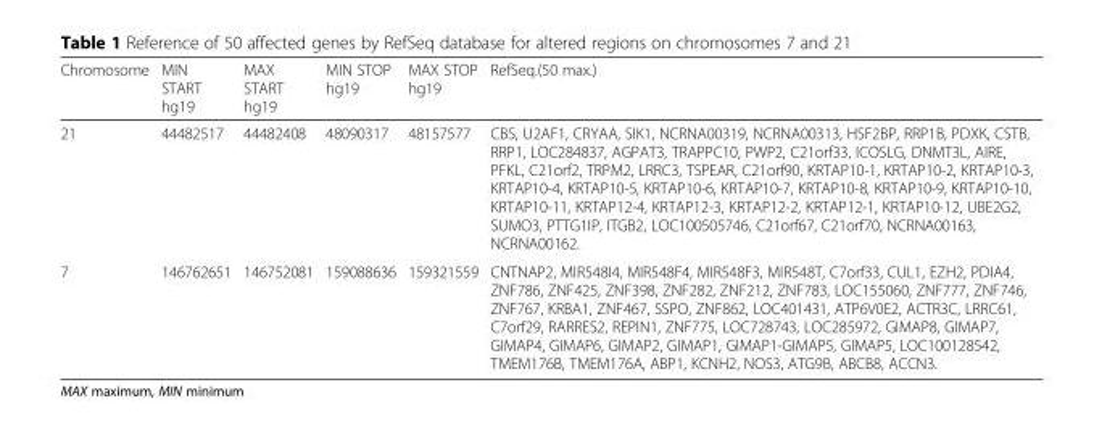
<table><thead><tr><td>Chromosome</td><td>MIN START hg19</td><td>MAX START hg19</td><td>MIN STOP hg19</td><td>MAX STOP hg19</td><td>RefSeq.(50 max.)</td></tr></thead><tbody><tr><td>21</td><td>44482517</td><td>44482408</td><td>48090317</td><td>48157577</td><td>CBS, U2AF1, CRYAA, SIK1, NCRNA00319, NCRNA00313, HSF2BP, RRP1B, PDXK, CSTB, RRP1, LOC284837, AGPAT3, TRAPPC10, PWP2, C21orf33, ICOSLG, DNMT3L, AIRE, PFKL, C21orf2, TRPM2, LRRC3, TSPEAR, C21orf90, KRTAP10-1, KRTAP10-2, KRTAP10-3, KRTAP10-4, KRTAP10-5, KRTAP10-6, KRTAP10-7, KRTAP10-8, KRTAP10-9, KRTAP10-10, KRTAP10-11, KRTAP12-4, KRTAP12-3, KRTAP12-2, KRTAP12-1, KRTAP10-12, UBE2G2, SUMO3, PTTG1IP, ITGB2, LOC100505746, C21orf67, C21orf70, NCRNA00163, NCRNA00162.</td></tr><tr><td>7</td><td>146762651</td><td>146752081</td><td>159088636</td><td>159321559</td><td>CNTNAP2, MIR548I4, MIR548F4, MIR548F3, MIR548T, C7orf33, CUL1, EZH2, PDIA4, ZNF786, ZNF425, ZNF398, ZNF282, ZNF212, ZNF783, LOC155060, ZNF777, ZNF746, ZNF767, KRBA1, ZNF467, SSPO, ZNF862, LOC401431, ATP6V0E2, ACTR3C, LRRC61, C7orf29, RARRES2, REPIN1, ZNF775, LOC728743, LOC285972, GIMAP8, GIMAP7, GIMAP4, GIMAP6, GIMAP2, GIMAP1, GIMAP1-GIMAP5, GIMAP5, LOC100128542, TMEM176B, TMEM176A, ABP1, KCNH2, NOS3, ATG9B, ABCB8, ACCN3.</td></tr></tbody></table>